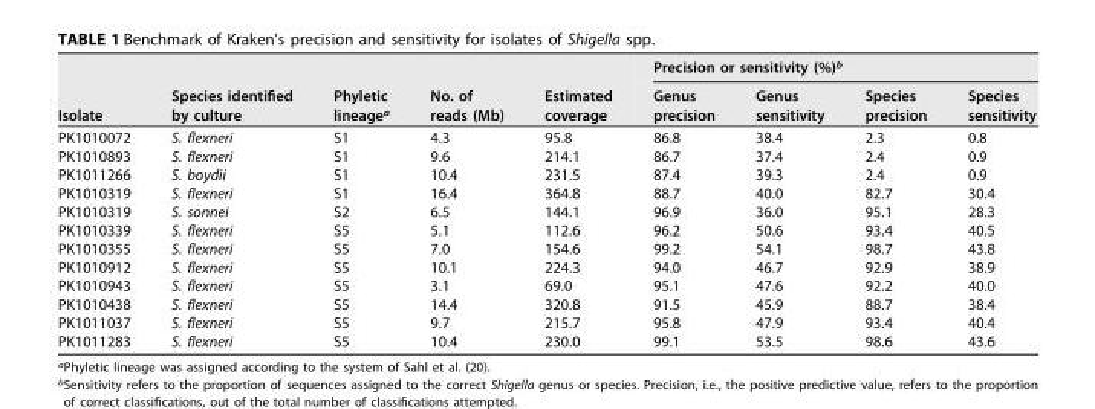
<table><thead><tr><td rowspan="2">Isolate</td><td rowspan="2">Species identified by culture</td><td rowspan="2">Phyletic lineage<sup>a</sup></td><td rowspan="2">No. of reads (Mb)</td><td rowspan="2">Estimated coverage</td><td colspan="4">Precision or sensitivity (%)<sup>b</sup></td></tr><tr><td>Genus precision</td><td>Genus sensitivity</td><td>Species precision</td><td>Species sensitivity</td></tr></thead><tbody><tr><td>PK1010072</td><td>S. flexneri</td><td>S1</td><td>4.3</td><td>95.8</td><td>86.8</td><td>38.4</td><td>2.3</td><td>0.8</td></tr><tr><td>PK1010893</td><td>S. flexneri</td><td>S1</td><td>9.6</td><td>214.1</td><td>86.7</td><td>37.4</td><td>2.4</td><td>0.9</td></tr><tr><td>PK1011266</td><td>S. boydii</td><td>S1</td><td>10.4</td><td>231.5</td><td>87.4</td><td>39.3</td><td>2.4</td><td>0.9</td></tr><tr><td>PK1010319</td><td>S. flexneri</td><td>S1</td><td>16.4</td><td>364.8</td><td>88.7</td><td>40.0</td><td>82.7</td><td>30.4</td></tr><tr><td>PK1010319</td><td>S. sonnei</td><td>S2</td><td>6.5</td><td>144.1</td><td>96.9</td><td>36.0</td><td>95.1</td><td>28.3</td></tr><tr><td>PK1010339</td><td>S. flexneri</td><td>S5</td><td>5.1</td><td>112.6</td><td>96.2</td><td>50.6</td><td>93.4</td><td>40.5</td></tr><tr><td>PK1010355</td><td>S. flexneri</td><td>S5</td><td>7.0</td><td>154.6</td><td>99.2</td><td>54.1</td><td>98.7</td><td>43.8</td></tr><tr><td>PK1010912</td><td>S. flexneri</td><td>S5</td><td>10.1</td><td>224.3</td><td>94.0</td><td>46.7</td><td>92.9</td><td>38.9</td></tr><tr><td>PK1010943</td><td>S. flexneri</td><td>S5</td><td>3.1</td><td>69.0</td><td>95.1</td><td>47.6</td><td>92.2</td><td>40.0</td></tr><tr><td>PK1010438</td><td>S. flexneri</td><td>S5</td><td>14.4</td><td>320.8</td><td>91.5</td><td>45.9</td><td>88.7</td><td>38.4</td></tr><tr><td>PK1011037</td><td>S. flexneri</td><td>S5</td><td>9.7</td><td>215.7</td><td>95.8</td><td>47.9</td><td>93.4</td><td>40.4</td></tr><tr><td>PK1011283</td><td>S. flexneri</td><td>S5</td><td>10.4</td><td>230.0</td><td>99.1</td><td>53.5</td><td>98.6</td><td>43.6</td></tr></tbody></table>